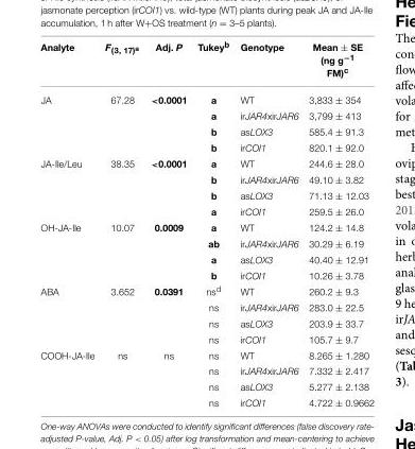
<table><thead><tr><td>Analyte</td><td>F<sub>(3, 17)</sub><sup>a</sup></td><td>Adj. P</td><td>Tukey<sup>b</sup></td><td>Genotype</td><td>Mean ± SE (ng g<sup>−1</sup> FM)<sup>c</sup></td></tr></thead><tbody><tr><td rowspan="4">JA</td><td>67.28</td><td>&lt;0.0001</td><td>a</td><td>WT</td><td>3,833 ± 354</td></tr><tr><td></td><td></td><td>a</td><td>irJAR4xirJAR6</td><td>3,799 ± 413</td></tr><tr><td></td><td></td><td>b</td><td>asLOX3</td><td>585.4 ± 91.3</td></tr><tr><td></td><td></td><td>b</td><td>irCOI1</td><td>820.1 ± 92.0</td></tr><tr><td rowspan="4">JA-Ile/Leu</td><td>38.35</td><td>&lt;0.0001</td><td>a</td><td>WT</td><td>244.6 ± 28.0</td></tr><tr><td></td><td></td><td>b</td><td>irJAR4xirJAR6</td><td>49.10 ± 3.82</td></tr><tr><td></td><td></td><td>b</td><td>asLOX3</td><td>71.13 ± 12.03</td></tr><tr><td></td><td></td><td>a</td><td>irCOI1</td><td>259.5 ± 26.0</td></tr><tr><td rowspan="4">OH-JA-Ile</td><td>10.07</td><td>0.0009</td><td>a</td><td>WT</td><td>124.2 ± 14.8</td></tr><tr><td></td><td></td><td>ab</td><td>irJAR4xirJAR6</td><td>30.29 ± 6.19</td></tr><tr><td></td><td></td><td>a</td><td>asLOX3</td><td>40.40 ± 12.91</td></tr><tr><td></td><td></td><td>b</td><td>irCOI1</td><td>10.26 ± 3.78</td></tr><tr><td rowspan="4">ABA</td><td>3.652</td><td>0.0391</td><td>ns<sup>d</sup></td><td>WT</td><td>260.2 ± 9.3</td></tr><tr><td></td><td></td><td>ns</td><td>irJAR4xirJAR6</td><td>283.0 ± 22.5</td></tr><tr><td></td><td></td><td>ns</td><td>asLOX3</td><td>203.9 ± 33.7</td></tr><tr><td></td><td></td><td>ns</td><td>irCOI1</td><td>105.7 ± 9.7</td></tr><tr><td rowspan="4">COOH-JA-Ile</td><td>ns</td><td>ns</td><td>ns</td><td>WT</td><td>8.265 ± 1.280</td></tr><tr><td></td><td></td><td>ns</td><td>irJAR4xirJAR6</td><td>7.332 ± 2.417</td></tr><tr><td></td><td></td><td>ns</td><td>asLOX3</td><td>5.277 ± 2.138</td></tr><tr><td></td><td></td><td>ns</td><td>irCOI1</td><td>4.722 ± 0.9662</td></tr></tbody></table>